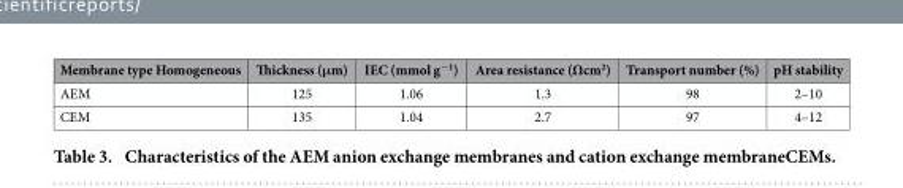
<table><thead><tr><td>Membrane type Homogeneous</td><td>Thickness (μm)</td><td>IEC (mmol g<sup>−1</sup>)</td><td>Area resistance (Ωcm<sup>2</sup>)</td><td>Transport number (%)</td><td>pH stability</td></tr></thead><tbody><tr><td>AEM</td><td>125</td><td>1.06</td><td>1.3</td><td>98</td><td>2–10</td></tr><tr><td>CEM</td><td>135</td><td>1.04</td><td>2.7</td><td>97</td><td>4–12</td></tr></tbody></table>